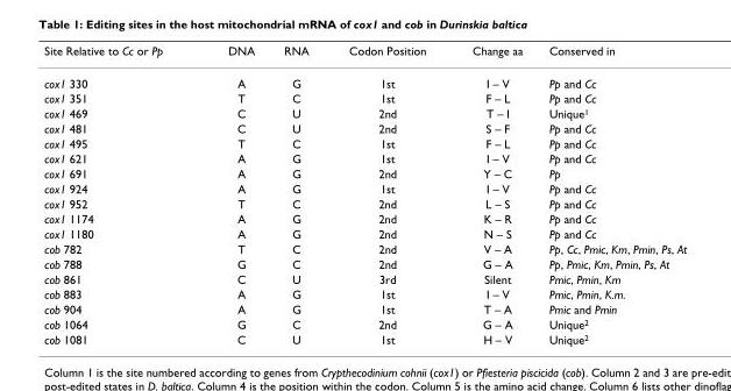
<table><thead><tr><td>Site Relative to Cc or Pp</td><td>DNA</td><td>RNA</td><td>Codon Position</td><td>Change aa</td><td>Conserved in</td></tr></thead><tbody><tr><td>cox1 330</td><td>A</td><td>G</td><td>1st</td><td>I – V</td><td>Pp and Cc</td></tr><tr><td>cox1 351</td><td>T</td><td>C</td><td>1st</td><td>F – L</td><td>Pp and Cc</td></tr><tr><td>cox1 469</td><td>C</td><td>U</td><td>2nd</td><td>T – I</td><td>Unique<sup>1</sup></td></tr><tr><td>cox1 481</td><td>C</td><td>U</td><td>2nd</td><td>S – F</td><td>Pp and Cc</td></tr><tr><td>cox1 495</td><td>T</td><td>C</td><td>1st</td><td>F – L</td><td>Pp and Cc</td></tr><tr><td>cox1 621</td><td>A</td><td>G</td><td>1st</td><td>I – V</td><td>Pp and Cc</td></tr><tr><td>cox1 691</td><td>A</td><td>G</td><td>2nd</td><td>Y – C</td><td>Pp</td></tr><tr><td>cox1 924</td><td>A</td><td>G</td><td>1st</td><td>I – V</td><td>Pp and Cc</td></tr><tr><td>cox1 952</td><td>T</td><td>C</td><td>2nd</td><td>L – S</td><td>Pp and Cc</td></tr><tr><td>cox1 1174</td><td>A</td><td>G</td><td>2nd</td><td>K – R</td><td>Pp and Cc</td></tr><tr><td>cox1 1180</td><td>A</td><td>G</td><td>2nd</td><td>N – S</td><td>Pp and Cc</td></tr><tr><td>cob 782</td><td>T</td><td>C</td><td>2nd</td><td>V – A</td><td>Pp, Cc, Pmic, Km, Pmin, Ps, At</td></tr><tr><td>cob 788</td><td>G</td><td>C</td><td>2nd</td><td>G – A</td><td>Pp, Pmic, Km, Pmin, Ps, At</td></tr><tr><td>cob 861</td><td>C</td><td>U</td><td>3rd</td><td>Silent</td><td>Pmic, Pmin, Km</td></tr><tr><td>cob 883</td><td>A</td><td>G</td><td>1st</td><td>I – V</td><td>Pmic, Pmin, K.m.</td></tr><tr><td>cob 904</td><td>A</td><td>G</td><td>1st</td><td>T – A</td><td>Pmic and Pmin</td></tr><tr><td>cob 1064</td><td>G</td><td>C</td><td>2nd</td><td>G – A</td><td>Unique<sup>2</sup></td></tr><tr><td>cob 1081</td><td>C</td><td>U</td><td>1st</td><td>H – V</td><td>Unique<sup>2</sup></td></tr></tbody></table>